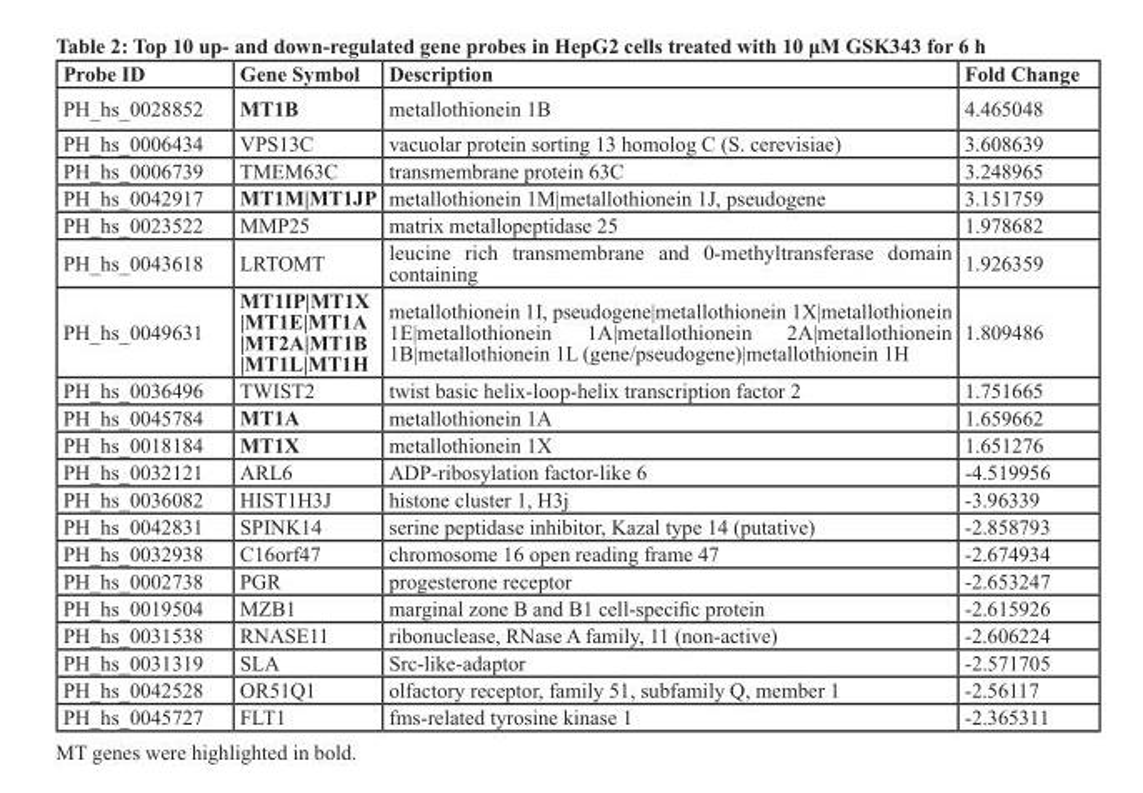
<table><thead><tr><td>Probe ID</td><td>Gene Symbol</td><td>Description</td><td>Fold Change</td></tr></thead><tbody><tr><td>PH_hs_0028852</td><td>MT1B</td><td>metallothionein 1B</td><td>4.465048</td></tr><tr><td>PH_hs_0006434</td><td>VPS13C</td><td>vacuolar protein sorting 13 homolog C (S. cerevisiae)</td><td>3.608639</td></tr><tr><td>PH_hs_0006739</td><td>TMEM63C</td><td>transmembrane protein 63C</td><td>3.248965</td></tr><tr><td>PH_hs_0042917</td><td>MT1M|MT1JP</td><td>metallothionein 1M|metallothionein 1J, pseudogene</td><td>3.151759</td></tr><tr><td>PH_hs_0023522</td><td>MMP25</td><td>matrix metallopeptidase 25</td><td>1.978682</td></tr><tr><td>PH_hs_0043618</td><td>LRTOMT</td><td>leucine rich transmembrane and 0-methyltransferase domain containing</td><td>1.926359</td></tr><tr><td>PH_hs_0049631</td><td>MT1IP|MT1X |MT1E|MT1A |MT2A|MT1B |MT1L|MT1H</td><td>metallothionein 1I, pseudogene|metallothionein 1X|metallothionein 1E|metallothionein 1A|metallothionein 2A|metallothionein 1B|metallothionein 1L (gene/pseudogene)|metallothionein 1H</td><td>1.809486</td></tr><tr><td>PH_hs_0036496</td><td>TWIST2</td><td>twist basic helix-loop-helix transcription factor 2</td><td>1.751665</td></tr><tr><td>PH_hs_0045784</td><td>MT1A</td><td>metallothionein 1A</td><td>1.659662</td></tr><tr><td>PH_hs_0018184</td><td>MT1X</td><td>metallothionein 1X</td><td>1.651276</td></tr><tr><td>PH_hs_0032121</td><td>ARL6</td><td>ADP-ribosylation factor-like 6</td><td>-4.519956</td></tr><tr><td>PH_hs_0036082</td><td>HIST1H3J</td><td>histone cluster 1, H3j</td><td>-3.96339</td></tr><tr><td>PH_hs_0042831</td><td>SPINK14</td><td>serine peptidase inhibitor, Kazal type 14 (putative)</td><td>-2.858793</td></tr><tr><td>PH_hs_0032938</td><td>C16orf47</td><td>chromosome 16 open reading frame 47</td><td>-2.674934</td></tr><tr><td>PH_hs_0002738</td><td>PGR</td><td>progesterone receptor</td><td>-2.653247</td></tr><tr><td>PH_hs_0019504</td><td>MZB1</td><td>marginal zone B and B1 cell-specific protein</td><td>-2.615926</td></tr><tr><td>PH_hs_0031538</td><td>RNASE11</td><td>ribonuclease, RNase A family, 11 (non-active)</td><td>-2.606224</td></tr><tr><td>PH_hs_0031319</td><td>SLA</td><td>Src-like-adaptor</td><td>-2.571705</td></tr><tr><td>PH_hs_0042528</td><td>OR51Q1</td><td>olfactory receptor, family 51, subfamily Q, member 1</td><td>-2.56117</td></tr><tr><td>PH_hs_0045727</td><td>FLT1</td><td>fms-related tyrosine kinase 1</td><td>-2.365311</td></tr></tbody></table>